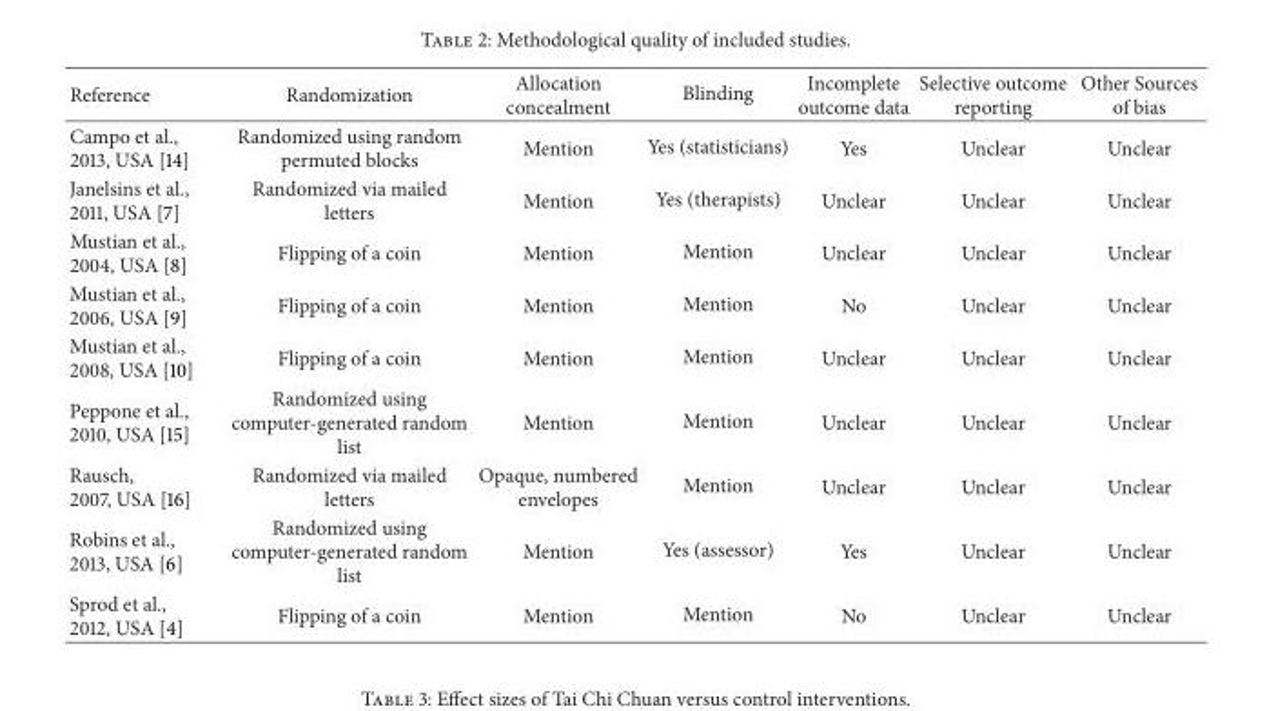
<table><thead><tr><td>Reference</td><td>Randomization</td><td>Allocation concealment</td><td>Blinding</td><td>Incomplete outcome data</td><td>Selective outcome reporting</td><td>Other Sources of bias</td></tr></thead><tbody><tr><td>Campo et al., 2013, USA [14]</td><td>Randomized using random permuted blocks</td><td>Mention</td><td>Yes (statisticians)</td><td>Yes</td><td>Unclear</td><td>Unclear</td></tr><tr><td>Janelsins et al., 2011, USA [7]</td><td>Randomized via mailed letters</td><td>Mention</td><td>Yes (therapists)</td><td>Unclear</td><td>Unclear</td><td>Unclear</td></tr><tr><td>Mustian et al., 2004, USA [8]</td><td>Flipping of a coin</td><td>Mention</td><td>Mention</td><td>Unclear</td><td>Unclear</td><td>Unclear</td></tr><tr><td>Mustian et al., 2006, USA [9]</td><td>Flipping of a coin</td><td>Mention</td><td>Mention</td><td>No</td><td>Unclear</td><td>Unclear</td></tr><tr><td>Mustian et al., 2008, USA [10]</td><td>Flipping of a coin</td><td>Mention</td><td>Mention</td><td>Unclear</td><td>Unclear</td><td>Unclear</td></tr><tr><td>Peppone et al., 2010, USA [15]</td><td>Randomized using computer-generated random list</td><td>Mention</td><td>Mention</td><td>Unclear</td><td>Unclear</td><td>Unclear</td></tr><tr><td>Rausch, 2007, USA [16]</td><td>Randomized via mailed letters</td><td>Opaque, numbered envelopes</td><td>Mention</td><td>Unclear</td><td>Unclear</td><td>Unclear</td></tr><tr><td>Robins et al., 2013, USA [6]</td><td>Randomized using computer-generated random list</td><td>Mention</td><td>Yes (assessor)</td><td>Yes</td><td>Unclear</td><td>Unclear</td></tr><tr><td>Sprod et al., 2012, USA [4]</td><td>Flipping of a coin</td><td>Mention</td><td>Mention</td><td>No</td><td>Unclear</td><td>Unclear</td></tr></tbody></table>